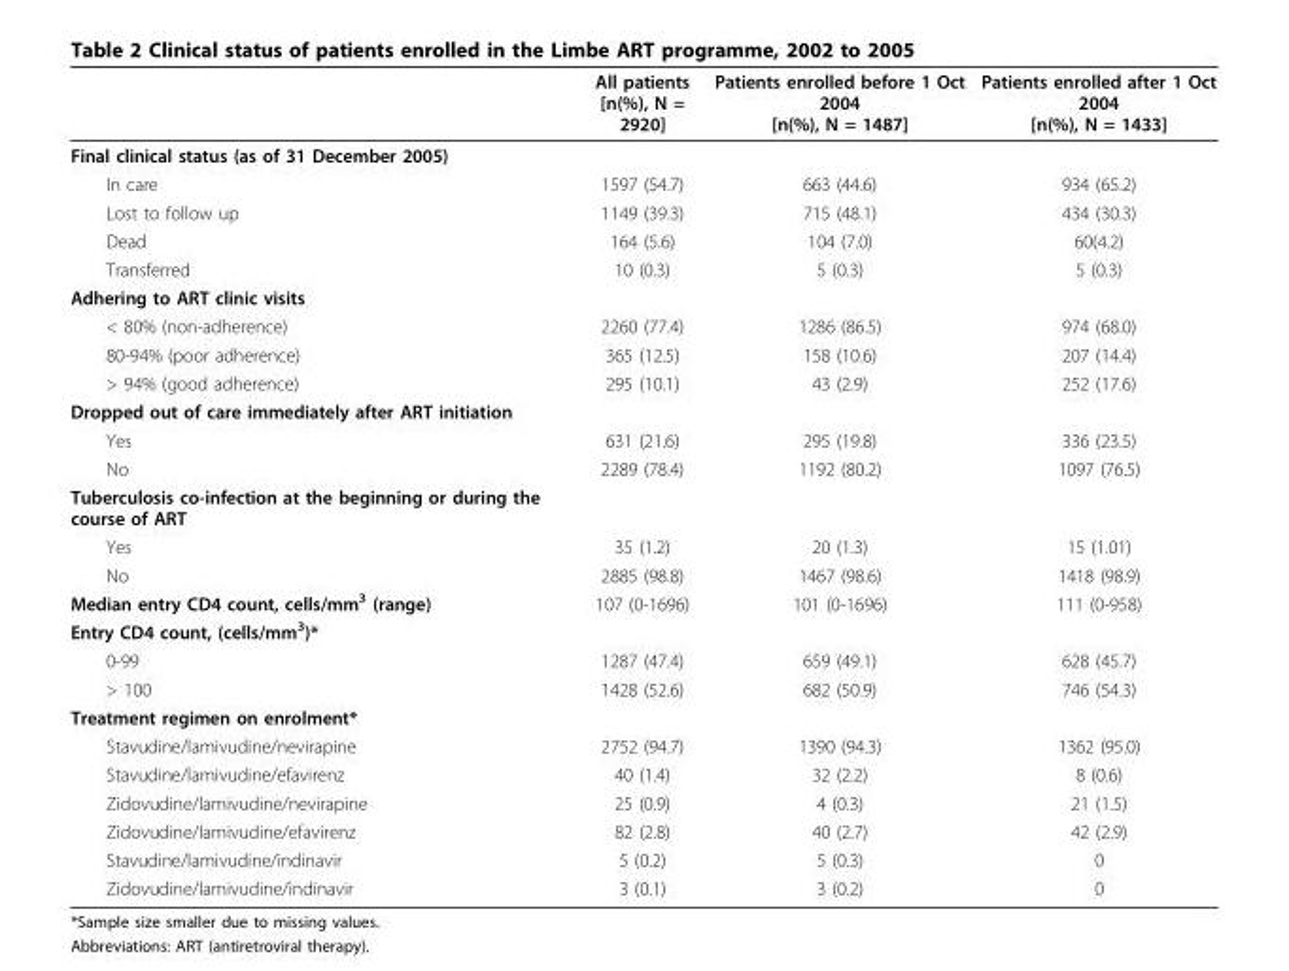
<table><thead><tr><td></td><td>All patients [n(%), N = 2920]</td><td>Patients enrolled before 1 Oct 2004 [n(%), N = 1487]</td><td>Patients enrolled after 1 Oct 2004 [n(%), N = 1433]</td></tr></thead><tbody><tr><td colspan="4">Final clinical status (as of 31 December 2005)</td></tr><tr><td>In care</td><td>1597 (54.7)</td><td>663 (44.6)</td><td>934 (65.2)</td></tr><tr><td>Lost to follow up</td><td>1149 (39.3)</td><td>715 (48.1)</td><td>434 (30.3)</td></tr><tr><td>Dead</td><td>164 (5.6)</td><td>104 (7.0)</td><td>60(4.2)</td></tr><tr><td>Transferred</td><td>10 (0.3)</td><td>5 (0.3)</td><td>5 (0.3)</td></tr><tr><td colspan="4">Adhering to ART clinic visits</td></tr><tr><td>&lt; 80% (non-adherence)</td><td>2260 (77.4)</td><td>1286 (86.5)</td><td>974 (68.0)</td></tr><tr><td>80-94% (poor adherence)</td><td>365 (12.5)</td><td>158 (10.6)</td><td>207 (14.4)</td></tr><tr><td>&gt; 94% (good adherence)</td><td>295 (10.1)</td><td>43 (2.9)</td><td>252 (17.6)</td></tr><tr><td colspan="4">Dropped out of care immediately after ART initiation</td></tr><tr><td>Yes</td><td>631 (21.6)</td><td>295 (19.8)</td><td>336 (23.5)</td></tr><tr><td>No</td><td>2289 (78.4)</td><td>1192 (80.2)</td><td>1097 (76.5)</td></tr><tr><td colspan="4">Tuberculosis co-infection at the beginning or during the course of ART</td></tr><tr><td>Yes</td><td>35 (1.2)</td><td>20 (1.3)</td><td>15 (1.01)</td></tr><tr><td>No</td><td>2885 (98.8)</td><td>1467 (98.6)</td><td>1418 (98.9)</td></tr><tr><td>Median entry CD4 count, cells/mm<sup>3</sup> (range)</td><td>107 (0-1696)</td><td>101 (0-1696)</td><td>111 (0-958)</td></tr><tr><td colspan="4">Entry CD4 count, (cells/mm<sup>3</sup>)*</td></tr><tr><td>0-99</td><td>1287 (47.4)</td><td>659 (49.1)</td><td>628 (45.7)</td></tr><tr><td>&gt; 100</td><td>1428 (52.6)</td><td>682 (50.9)</td><td>746 (54.3)</td></tr><tr><td colspan="4">Treatment regimen on enrolment*</td></tr><tr><td>Stavudine/lamivudine/nevirapine</td><td>2752 (94.7)</td><td>1390 (94.3)</td><td>1362 (95.0)</td></tr><tr><td>Stavudine/lamivudine/efavirenz</td><td>40 (1.4)</td><td>32 (2.2)</td><td>8 (0.6)</td></tr><tr><td>Zidovudine/lamivudine/nevirapine</td><td>25 (0.9)</td><td>4 (0.3)</td><td>21 (1.5)</td></tr><tr><td>Zidovudine/lamivudine/efavirenz</td><td>82 (2.8)</td><td>40 (2.7)</td><td>42 (2.9)</td></tr><tr><td>Stavudine/lamivudine/indinavir</td><td>5 (0.2)</td><td>5 (0.3)</td><td>0</td></tr><tr><td>Zidovudine/lamivudine/indinavir</td><td>3 (0.1)</td><td>3 (0.2)</td><td>0</td></tr></tbody></table>